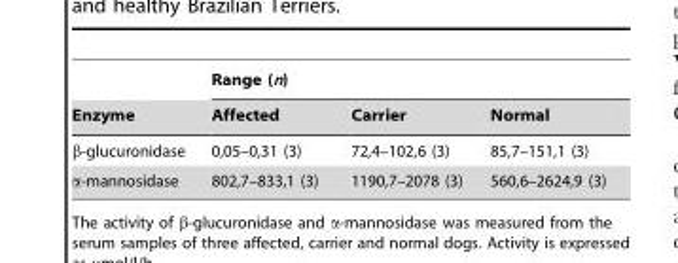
<table><thead><tr><td rowspan="2">Enzyme</td><td colspan="3">Range (n)</td></tr><tr><td>Affected</td><td>Carrier</td><td>Normal</td></tr></thead><tbody><tr><td>β-glucuronidase</td><td>0,05–0,31 (3)</td><td>72,4–102,6 (3)</td><td>85,7–151,1 (3)</td></tr><tr><td>α-mannosidase</td><td>802,7–833,1 (3)</td><td>1190,7–2078 (3)</td><td>560,6–2624,9 (3)</td></tr></tbody></table>